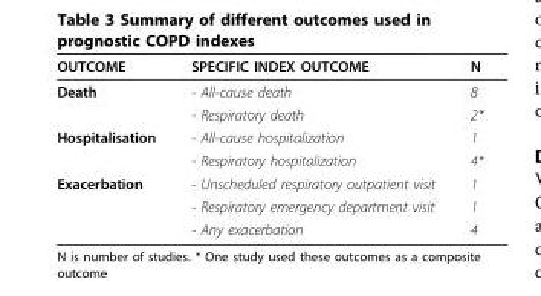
<table><thead><tr><td>OUTCOME</td><td>SPECIFIC INDEX OUTCOME</td><td>N</td></tr></thead><tbody><tr><td rowspan="2">Death</td><td>- All-cause death</td><td>8</td></tr><tr><td>- Respiratory death</td><td>2*</td></tr><tr><td rowspan="2">Hospitalisation</td><td>- All-cause hospitalization</td><td>1</td></tr><tr><td>- Respiratory hospitalization</td><td>4*</td></tr><tr><td rowspan="3">Exacerbation</td><td>- Unscheduled respiratory outpatient visit</td><td>1</td></tr><tr><td>- Respiratory emergency department visit</td><td>1</td></tr><tr><td>- Any exacerbation</td><td>4</td></tr></tbody></table>